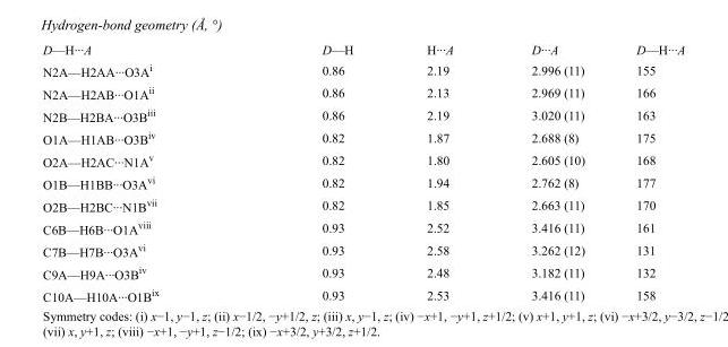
<table><tbody><tr><td>D—H···A</td><td>D—H</td><td>H···A</td><td>D···A</td><td>D—H···A</td></tr><tr><td>N2A—H2AA···O3A<sup>i</sup></td><td>0.86</td><td>2.19</td><td>2.996 (11)</td><td>155</td></tr><tr><td>N2A—H2AB···O1A<sup>ii</sup></td><td>0.86</td><td>2.13</td><td>2.969 (11)</td><td>166</td></tr><tr><td>N2B—H2BA···O3B<sup>iii</sup></td><td>0.86</td><td>2.19</td><td>3.020 (11)</td><td>163</td></tr><tr><td>O1A—H1AB···O3B<sup>iv</sup></td><td>0.82</td><td>1.87</td><td>2.688 (8)</td><td>175</td></tr><tr><td>O2A—H2AC···N1A<sup>v</sup></td><td>0.82</td><td>1.80</td><td>2.605 (10)</td><td>168</td></tr><tr><td>O1B—H1BB···O3A<sup>vi</sup></td><td>0.82</td><td>1.94</td><td>2.762 (8)</td><td>177</td></tr><tr><td>O2B—H2BC···N1B<sup>vii</sup></td><td>0.82</td><td>1.85</td><td>2.663 (11)</td><td>170</td></tr><tr><td>C6B—H6B···O1A<sup>viii</sup></td><td>0.93</td><td>2.52</td><td>3.416 (11)</td><td>161</td></tr><tr><td>C7B—H7B···O3A<sup>vi</sup></td><td>0.93</td><td>2.58</td><td>3.262 (12)</td><td>131</td></tr><tr><td>C9A—H9A···O3B<sup>iv</sup></td><td>0.93</td><td>2.48</td><td>3.182 (11)</td><td>132</td></tr><tr><td>C10A—H10A···O1B<sup>ix</sup></td><td>0.93</td><td>2.53</td><td>3.416 (11)</td><td>158</td></tr></tbody></table>